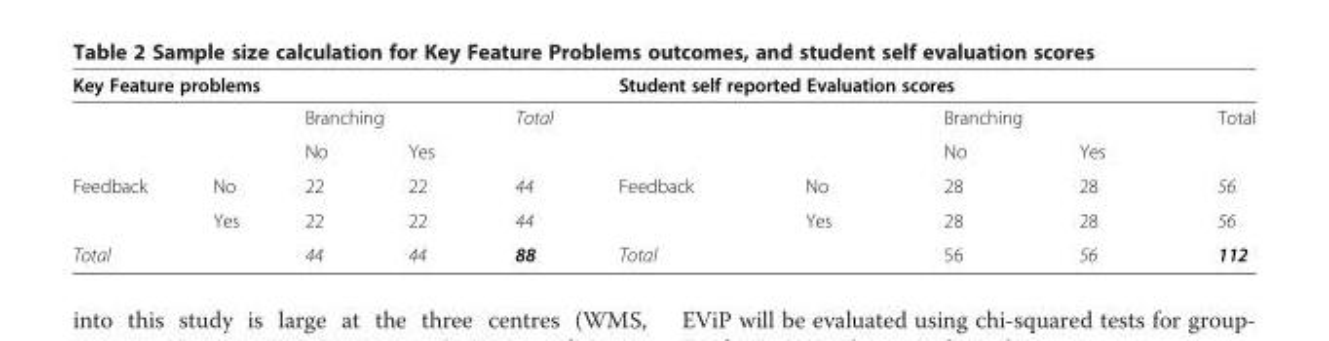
<table><thead><tr><td colspan="5">Key Feature problems</td><td colspan="4">Student self reported Evaluation scores</td><td rowspan="3">Total</td></tr><tr><td rowspan="2"></td><td rowspan="2"></td><td colspan="2">Branching</td><td rowspan="2">Total</td><td rowspan="2"></td><td rowspan="2"></td><td colspan="2">Branching</td></tr><tr><td>No</td><td>Yes</td><td>No</td><td>Yes</td></tr></thead><tbody><tr><td rowspan="2">Feedback</td><td>No</td><td>22</td><td>22</td><td>44</td><td>Feedback</td><td>No</td><td>28</td><td>28</td><td>56</td></tr><tr><td>Yes</td><td>22</td><td>22</td><td>44</td><td></td><td>Yes</td><td>28</td><td>28</td><td>56</td></tr><tr><td>Total</td><td></td><td>44</td><td>44</td><td>88</td><td>Total</td><td></td><td>56</td><td>56</td><td>112</td></tr></tbody></table>